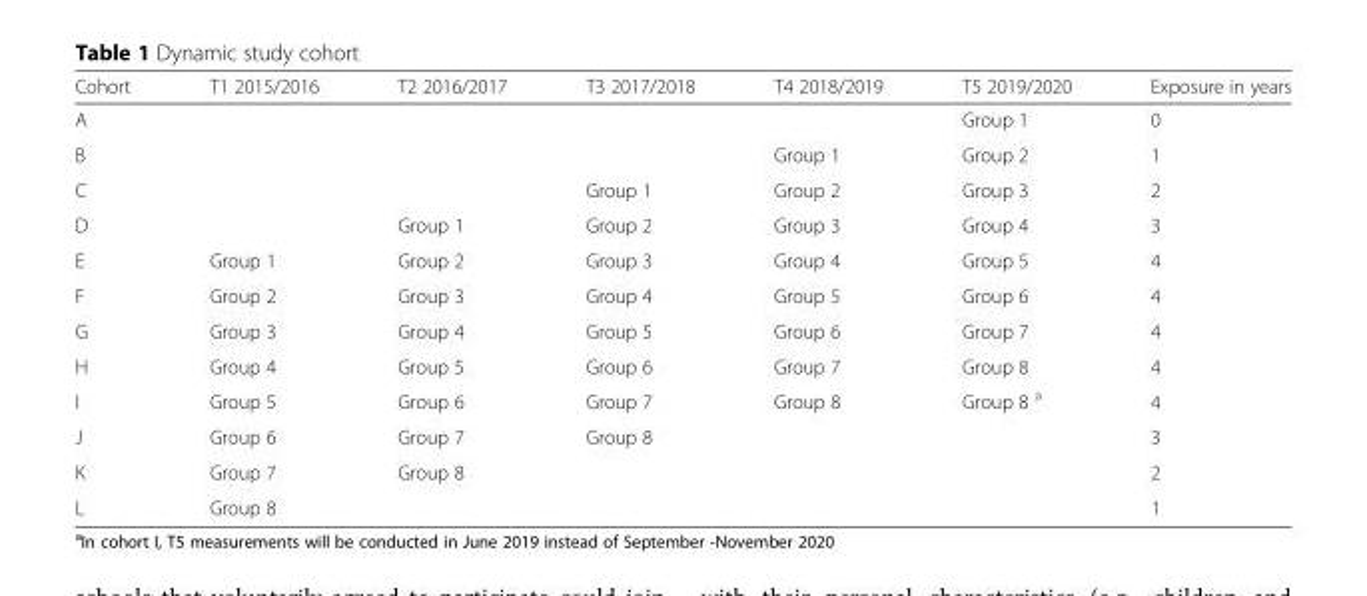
<table><thead><tr><td>Cohort</td><td>T1 2015/2016</td><td>T2 2016/2017</td><td>T3 2017/2018</td><td>T4 2018/2019</td><td>T5 2019/2020</td><td>Exposure in years</td></tr></thead><tbody><tr><td>A</td><td></td><td></td><td></td><td></td><td>Group 1</td><td>0</td></tr><tr><td>B</td><td></td><td></td><td></td><td>Group 1</td><td>Group 2</td><td>1</td></tr><tr><td>C</td><td></td><td></td><td>Group 1</td><td>Group 2</td><td>Group 3</td><td>2</td></tr><tr><td>D</td><td></td><td>Group 1</td><td>Group 2</td><td>Group 3</td><td>Group 4</td><td>3</td></tr><tr><td>E</td><td>Group 1</td><td>Group 2</td><td>Group 3</td><td>Group 4</td><td>Group 5</td><td>4</td></tr><tr><td>F</td><td>Group 2</td><td>Group 3</td><td>Group 4</td><td>Group 5</td><td>Group 6</td><td>4</td></tr><tr><td>G</td><td>Group 3</td><td>Group 4</td><td>Group 5</td><td>Group 6</td><td>Group 7</td><td>4</td></tr><tr><td>H</td><td>Group 4</td><td>Group 5</td><td>Group 6</td><td>Group 7</td><td>Group 8</td><td>4</td></tr><tr><td>I</td><td>Group 5</td><td>Group 6</td><td>Group 7</td><td>Group 8</td><td>Group 8 <sup>a</sup></td><td>4</td></tr><tr><td>J</td><td>Group 6</td><td>Group 7</td><td>Group 8</td><td></td><td></td><td>3</td></tr><tr><td>K</td><td>Group 7</td><td>Group 8</td><td></td><td></td><td></td><td>2</td></tr><tr><td>L</td><td>Group 8</td><td></td><td></td><td></td><td></td><td>1</td></tr></tbody></table>